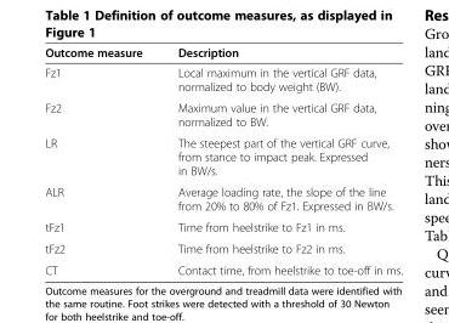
<table><thead><tr><td>Outcome measure</td><td>Description</td></tr></thead><tbody><tr><td>Fz1</td><td>Local maximum in the vertical GRF data, normalized to body weight (BW).</td></tr><tr><td>Fz2</td><td>Maximum value in the vertical GRF data, normalized to BW.</td></tr><tr><td>LR</td><td>The steepest part of the vertical GRF curve, from stance to impact peak. Expressed in BW/s.</td></tr><tr><td>ALR</td><td>Average loading rate, the slope of the line from 20% to 80% of Fz1. Expressed in BW/s.</td></tr><tr><td>tFz1</td><td>Time from heelstrike to Fz1 in ms.</td></tr><tr><td>tFz2</td><td>Time from heelstrike to Fz2 in ms.</td></tr><tr><td>CT</td><td>Contact time, from heelstrike to toe-off in ms.</td></tr></tbody></table>